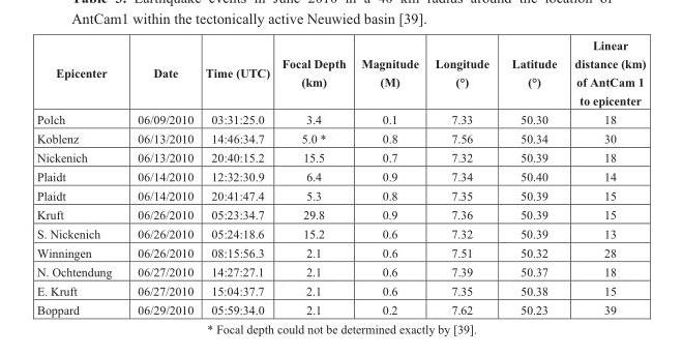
<table><thead><tr><td>Epicenter</td><td>Date</td><td>Time (UTC)</td><td>Focal Depth (km)</td><td>Magnitude (M)</td><td>Longitude (°)</td><td>Latitude (°)</td><td>Linear distance (km) of AntCam 1 to epicenter</td></tr></thead><tbody><tr><td>Polch</td><td>06/09/2010</td><td>03:31:25.0</td><td>3.4</td><td>0.1</td><td>7.33</td><td>50.30</td><td>18</td></tr><tr><td>Koblenz</td><td>06/13/2010</td><td>14:46:34.7</td><td>5.0 *</td><td>0.8</td><td>7.56</td><td>50.34</td><td>30</td></tr><tr><td>Nickenich</td><td>06/13/2010</td><td>20:40:15.2</td><td>15.5</td><td>0.7</td><td>7.32</td><td>50.39</td><td>18</td></tr><tr><td>Plaidt</td><td>06/14/2010</td><td>12:32:30.9</td><td>6.4</td><td>0.9</td><td>7.34</td><td>50.40</td><td>14</td></tr><tr><td>Plaidt</td><td>06/14/2010</td><td>20:41:47.4</td><td>5.3</td><td>0.8</td><td>7.35</td><td>50.39</td><td>15</td></tr><tr><td>Kruft</td><td>06/26/2010</td><td>05:23:34.7</td><td>29.8</td><td>0.9</td><td>7.36</td><td>50.39</td><td>15</td></tr><tr><td>S. Nickenich</td><td>06/26/2010</td><td>05:24:18.6</td><td>15.2</td><td>0.6</td><td>7.32</td><td>50.39</td><td>13</td></tr><tr><td>Winningen</td><td>06/26/2010</td><td>08:15:56.3</td><td>2.1</td><td>0.6</td><td>7.51</td><td>50.32</td><td>28</td></tr><tr><td>N. Ochtendung</td><td>06/27/2010</td><td>14:27:27.1</td><td>2.1</td><td>0.6</td><td>7.39</td><td>50.37</td><td>18</td></tr><tr><td>E. Kruft</td><td>06/27/2010</td><td>15:04:37.7</td><td>2.1</td><td>0.6</td><td>7.35</td><td>50.38</td><td>15</td></tr><tr><td>Boppard</td><td>06/29/2010</td><td>05:59:34.0</td><td>2.1</td><td>0.2</td><td>7.62</td><td>50.23</td><td>39</td></tr></tbody></table>